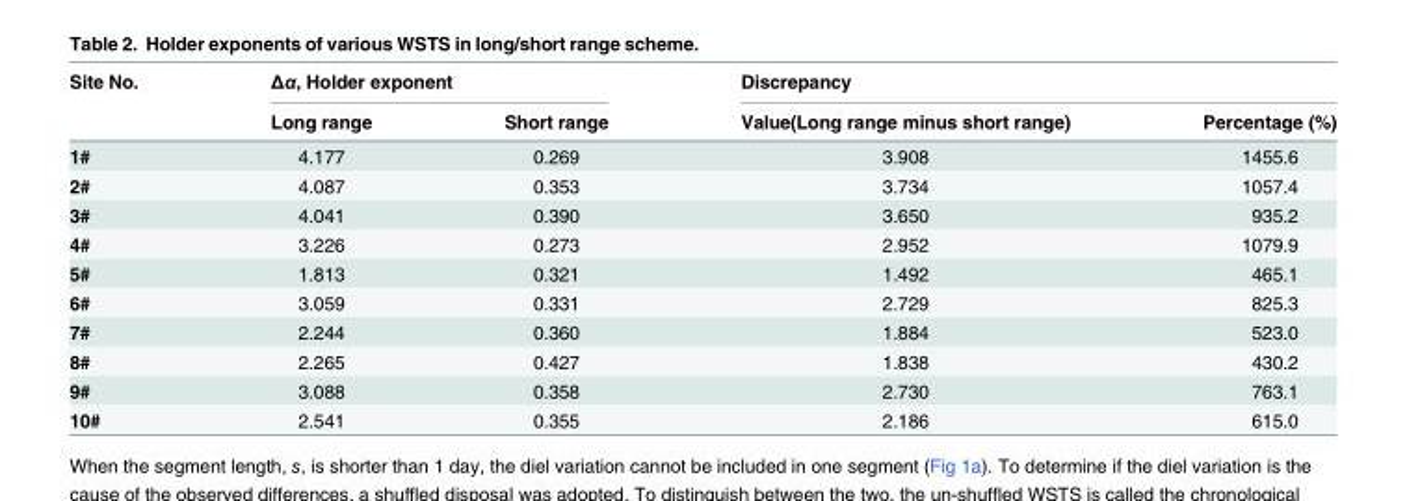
<table><thead><tr><td rowspan="2">Site No.</td><td colspan="2">Δα, Holder exponent</td><td colspan="2">Discrepancy</td></tr><tr><td>Long range</td><td>Short range</td><td>Value(Long range minus short range)</td><td>Percentage (%)</td></tr></thead><tbody><tr><td>1#</td><td>4.177</td><td>0.269</td><td>3.908</td><td>1455.6</td></tr><tr><td>2#</td><td>4.087</td><td>0.353</td><td>3.734</td><td>1057.4</td></tr><tr><td>3#</td><td>4.041</td><td>0.390</td><td>3.650</td><td>935.2</td></tr><tr><td>4#</td><td>3.226</td><td>0.273</td><td>2.952</td><td>1079.9</td></tr><tr><td>5#</td><td>1.813</td><td>0.321</td><td>1.492</td><td>465.1</td></tr><tr><td>6#</td><td>3.059</td><td>0.331</td><td>2.729</td><td>825.3</td></tr><tr><td>7#</td><td>2.244</td><td>0.360</td><td>1.884</td><td>523.0</td></tr><tr><td>8#</td><td>2.265</td><td>0.427</td><td>1.838</td><td>430.2</td></tr><tr><td>9#</td><td>3.088</td><td>0.358</td><td>2.730</td><td>763.1</td></tr><tr><td>10#</td><td>2.541</td><td>0.355</td><td>2.186</td><td>615.0</td></tr></tbody></table>